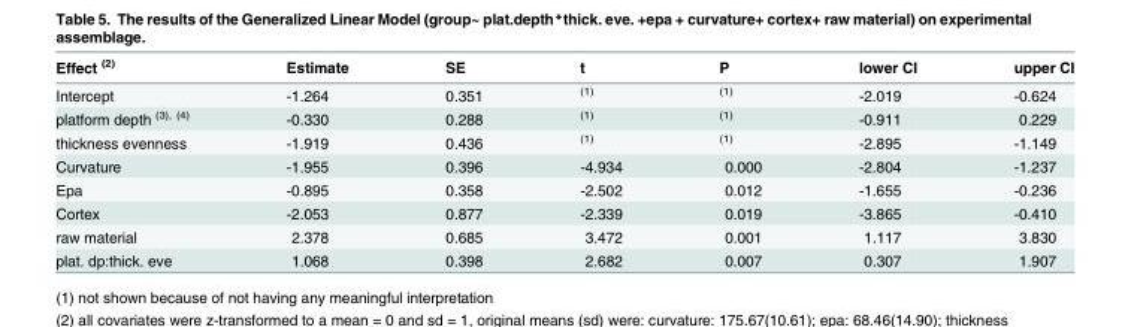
<table><thead><tr><td>Effect <sup>(2)</sup></td><td>Estimate</td><td>SE</td><td>t</td><td>P</td><td>lower CI</td><td>upper CI</td></tr></thead><tbody><tr><td>Intercept</td><td>-1.264</td><td>0.351</td><td><sup>(1)</sup></td><td><sup>(1)</sup></td><td>-2.019</td><td>-0.624</td></tr><tr><td>platform depth <sup>(3), (4)</sup></td><td>-0.330</td><td>0.288</td><td><sup>(1)</sup></td><td><sup>(1)</sup></td><td>-0.911</td><td>0.229</td></tr><tr><td>thickness evenness</td><td>-1.919</td><td>0.436</td><td><sup>(1)</sup></td><td><sup>(1)</sup></td><td>-2.895</td><td>-1.149</td></tr><tr><td>Curvature</td><td>-1.955</td><td>0.396</td><td>-4.934</td><td>0.000</td><td>-2.804</td><td>-1.237</td></tr><tr><td>Epa</td><td>-0.895</td><td>0.358</td><td>-2.502</td><td>0.012</td><td>-1.655</td><td>-0.236</td></tr><tr><td>Cortex</td><td>-2.053</td><td>0.877</td><td>-2.339</td><td>0.019</td><td>-3.865</td><td>-0.410</td></tr><tr><td>raw material</td><td>2.378</td><td>0.685</td><td>3.472</td><td>0.001</td><td>1.117</td><td>3.830</td></tr><tr><td>plat. dp:thick. eve</td><td>1.068</td><td>0.398</td><td>2.682</td><td>0.007</td><td>0.307</td><td>1.907</td></tr></tbody></table>